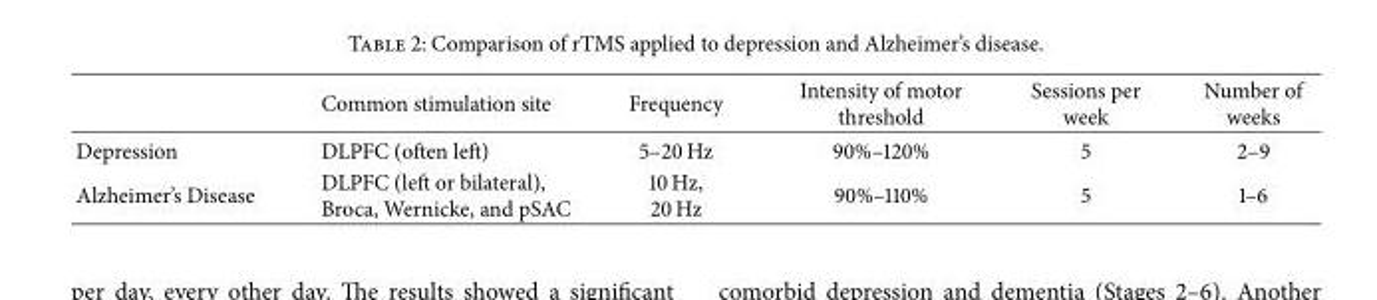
<table><thead><tr><td></td><td>Common stimulation site</td><td>Frequency</td><td>Intensity of motor threshold</td><td>Sessions per week</td><td>Number of weeks</td></tr></thead><tbody><tr><td>Depression</td><td>DLPFC (often left)</td><td>5–20 Hz</td><td>90%–120%</td><td>5</td><td>2–9</td></tr><tr><td>Alzheimer’s Disease</td><td>DLPFC (left or bilateral), Broca, Wernicke, and pSAC</td><td>10 Hz, 20 Hz</td><td>90%–110%</td><td>5</td><td>1–6</td></tr></tbody></table>